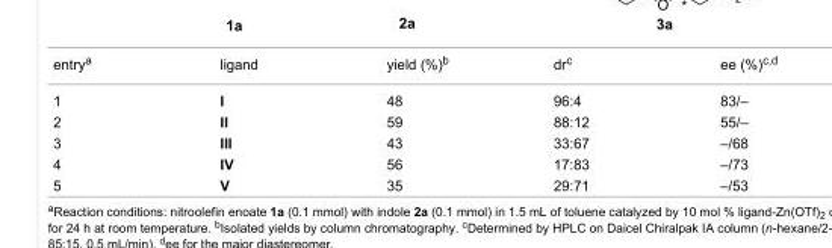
<table><tbody><tr><td>entry<sup>a</sup></td><td>ligand</td><td>yield (%)<sup>b</sup></td><td>dr<sup>c</sup></td><td>ee (%)<sup>c,d</sup></td></tr><tr><td>1</td><td>I</td><td>48</td><td>96:4</td><td>83/–</td></tr><tr><td>2</td><td>II</td><td>59</td><td>88:12</td><td>55/–</td></tr><tr><td>3</td><td>III</td><td>43</td><td>33:67</td><td>–/68</td></tr><tr><td>4</td><td>IV</td><td>56</td><td>17:83</td><td>–/73</td></tr><tr><td>5</td><td>V</td><td>35</td><td>29:71</td><td>–/53</td></tr></tbody></table>